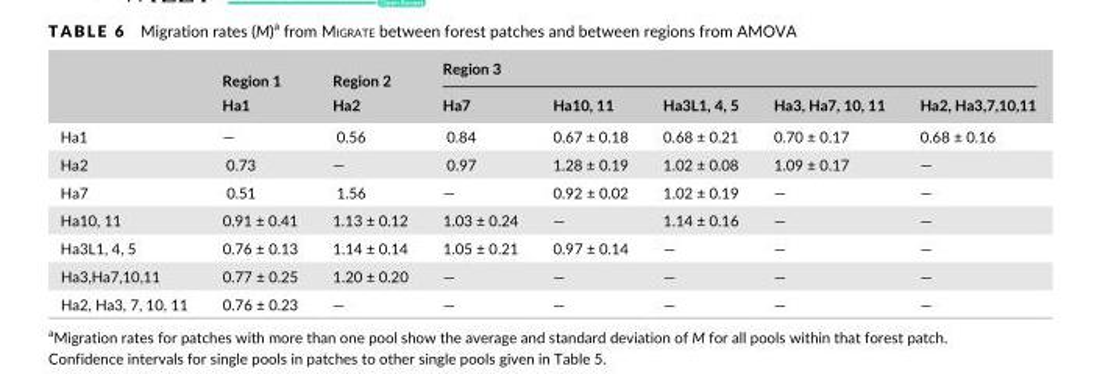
<table><thead><tr><td rowspan="2"></td><td rowspan="2">Region 1 Ha1</td><td rowspan="2">Region 2 Ha2</td><td colspan="5">Region 3</td></tr><tr><td>Ha7</td><td>Ha10, 11</td><td>Ha3L1, 4, 5</td><td>Ha3, Ha7, 10, 11</td><td>Ha2, Ha3,7,10,11</td></tr></thead><tbody><tr><td>Ha1</td><td>—</td><td>0.56</td><td>0.84</td><td>0.67 ± 0.18</td><td>0.68 ± 0.21</td><td>0.70 ± 0.17</td><td>0.68 ± 0.16</td></tr><tr><td>Ha2</td><td>0.73</td><td>—</td><td>0.97</td><td>1.28 ± 0.19</td><td>1.02 ± 0.08</td><td>1.09 ± 0.17</td><td>—</td></tr><tr><td>Ha7</td><td>0.51</td><td>1.56</td><td>—</td><td>0.92 ± 0.02</td><td>1.02 ± 0.19</td><td>—</td><td>—</td></tr><tr><td>Ha10, 11</td><td>0.91 ± 0.41</td><td>1.13 ± 0.12</td><td>1.03 ± 0.24</td><td>—</td><td>1.14 ± 0.16</td><td>—</td><td>—</td></tr><tr><td>Ha3L1, 4, 5</td><td>0.76 ± 0.13</td><td>1.14 ± 0.14</td><td>1.05 ± 0.21</td><td>0.97 ± 0.14</td><td>—</td><td>—</td><td>—</td></tr><tr><td>Ha3,Ha7,10,11</td><td>0.77 ± 0.25</td><td>1.20 ± 0.20</td><td>—</td><td>—</td><td>—</td><td>—</td><td>—</td></tr><tr><td>Ha2, Ha3, 7, 10, 11</td><td>0.76 ± 0.23</td><td>—</td><td>—</td><td>—</td><td>—</td><td>—</td><td>—</td></tr></tbody></table>